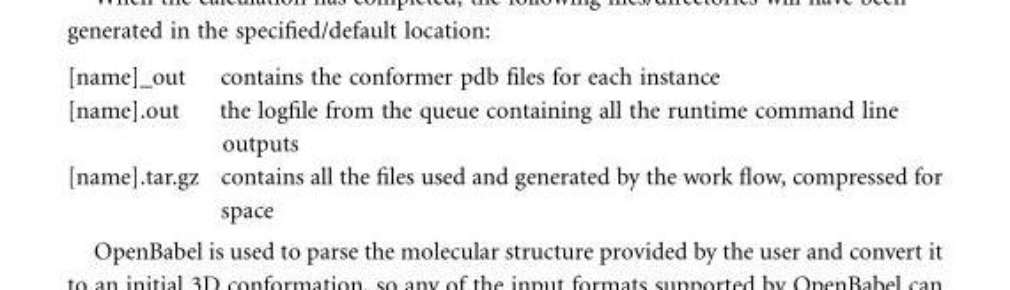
<table><tbody><tr><td>[name]_out</td><td>contains the conformer pdb files for each instance</td></tr><tr><td>[name].out</td><td>the logfile from the queue containing all the runtime command line outputs</td></tr><tr><td>[name].tar.gz</td><td>contains all the files used and generated by the work flow, compressed for space</td></tr></tbody></table>